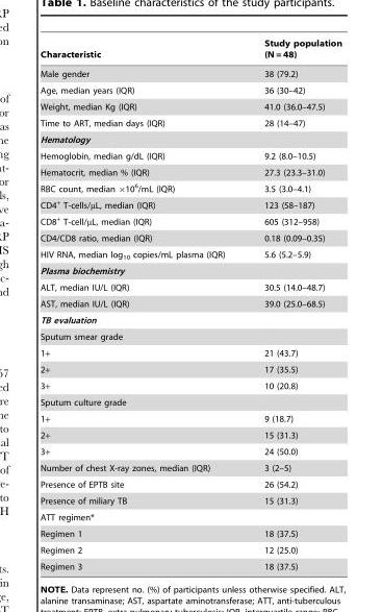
<table><thead><tr><td>Characteristic</td><td>Study population (N = 48)</td></tr></thead><tbody><tr><td>Male gender</td><td>38 (79.2)</td></tr><tr><td>Age, median years (IQR)</td><td>36 (30–42)</td></tr><tr><td>Weight, median Kg (IQR)</td><td>41.0 (36.0–47.5)</td></tr><tr><td>Time to ART, median days (IQR)</td><td>28 (14–47)</td></tr><tr><td colspan="2">Hematology</td></tr><tr><td>Hemoglobin, median g/dL (IQR)</td><td>9.2 (8.0–10.5)</td></tr><tr><td>Hematocrit, median % (IQR)</td><td>27.3 (23.3–31.0)</td></tr><tr><td>RBC count, median ×10<sup>6</sup>/mL (IQR)</td><td>3.5 (3.0–4.1)</td></tr><tr><td>CD4<sup>+</sup> T-cells/µL, median (IQR)</td><td>123 (58–187)</td></tr><tr><td>CD8<sup>+</sup> T-cell/µL, median (IQR)</td><td>605 (312–958)</td></tr><tr><td>CD4/CD8 ratio, median (IQR)</td><td>0.18 (0.09–0.35)</td></tr><tr><td>HIV RNA, median log<sub>10</sub> copies/mL plasma (IQR)</td><td>5.6 (5.2–5.9)</td></tr><tr><td colspan="2">Plasma biochemistry</td></tr><tr><td>ALT, median IU/L (IQR)</td><td>30.5 (14.0–48.7)</td></tr><tr><td>AST, median IU/L (IQR)</td><td>39.0 (25.0–68.5)</td></tr><tr><td colspan="2">TB evaluation</td></tr><tr><td colspan="2">Sputum smear grade</td></tr><tr><td>1+</td><td>21 (43.7)</td></tr><tr><td>2+</td><td>17 (35.5)</td></tr><tr><td>3+</td><td>10 (20.8)</td></tr><tr><td colspan="2">Sputum culture grade</td></tr><tr><td>1+</td><td>9 (18.7)</td></tr><tr><td>2+</td><td>15 (31.3)</td></tr><tr><td>3+</td><td>24 (50.0)</td></tr><tr><td>Number of chest X-ray zones, median (IQR)</td><td>3 (2–5)</td></tr><tr><td>Presence of EPTB site</td><td>26 (54.2)</td></tr><tr><td>Presence of miliary TB</td><td>15 (31.3)</td></tr><tr><td colspan="2">ATT regimen*</td></tr><tr><td>Regimen 1</td><td>18 (37.5)</td></tr><tr><td>Regimen 2</td><td>12 (25.0)</td></tr><tr><td>Regimen 3</td><td>18 (37.5)</td></tr></tbody></table>